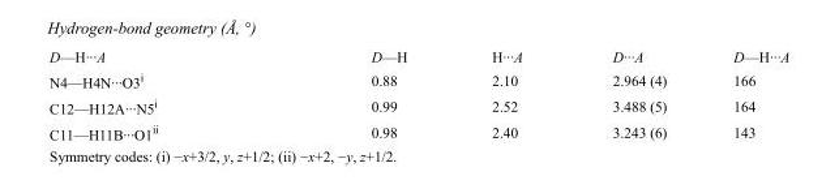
<table><tbody><tr><td>D—H···A</td><td>D—H</td><td>H···A</td><td>D···A</td><td>D—H···A</td></tr><tr><td>N4—H4N···O3<sup>i</sup></td><td>0.88</td><td>2.10</td><td>2.964 (4)</td><td>166</td></tr><tr><td>C12—H12A···N5<sup>i</sup></td><td>0.99</td><td>2.52</td><td>3.488 (5)</td><td>164</td></tr><tr><td>C11—H11B···O1<sup>ii</sup></td><td>0.98</td><td>2.40</td><td>3.243 (6)</td><td>143</td></tr></tbody></table>